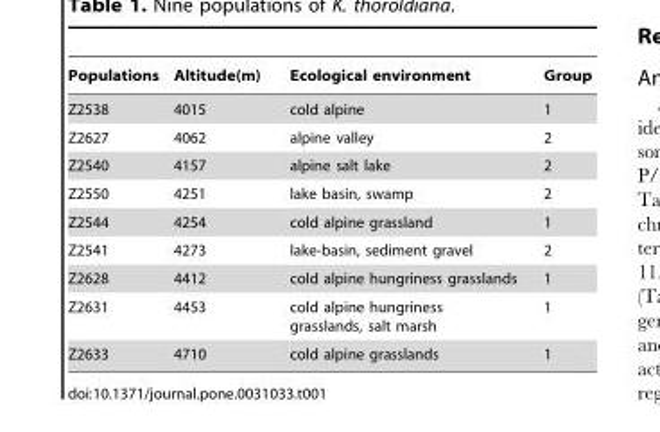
<table><thead><tr><td>Populations</td><td>Altitude(m)</td><td>Ecological environment</td><td>Group</td></tr></thead><tbody><tr><td>Z2538</td><td>4015</td><td>cold alpine</td><td>1</td></tr><tr><td>Z2627</td><td>4062</td><td>alpine valley</td><td>2</td></tr><tr><td>Z2540</td><td>4157</td><td>alpine salt lake</td><td>2</td></tr><tr><td>Z2550</td><td>4251</td><td>lake basin, swamp</td><td>2</td></tr><tr><td>Z2544</td><td>4254</td><td>cold alpine grassland</td><td>1</td></tr><tr><td>Z2541</td><td>4273</td><td>lake-basin, sediment gravel</td><td>2</td></tr><tr><td>Z2628</td><td>4412</td><td>cold alpine hungriness grasslands</td><td>1</td></tr><tr><td>Z2631</td><td>4453</td><td>cold alpine hungriness grasslands, salt marsh</td><td>1</td></tr><tr><td>Z2633</td><td>4710</td><td>cold alpine grasslands</td><td>1</td></tr></tbody></table>